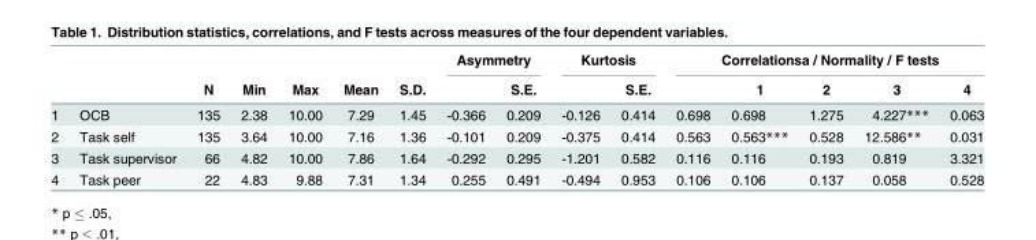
<table><thead><tr><td rowspan="2"></td><td rowspan="2"></td><td rowspan="2">N</td><td rowspan="2">Min</td><td rowspan="2">Max</td><td rowspan="2">Mean</td><td rowspan="2">S.D.</td><td colspan="2">Asymmetry</td><td colspan="2">Kurtosis</td><td colspan="5">Correlationsa / Normality / F tests</td></tr><tr><td></td><td>S.E.</td><td></td><td>S.E.</td><td></td><td>1</td><td>2</td><td>3</td><td>4</td></tr></thead><tbody><tr><td>1</td><td>OCB</td><td>135</td><td>2.38</td><td>10.00</td><td>7.29</td><td>1.45</td><td>-0.366</td><td>0.209</td><td>-0.126</td><td>0.414</td><td>0.698</td><td>0.698</td><td>1.275</td><td>4.227***</td><td>0.063</td></tr><tr><td>2</td><td>Task self</td><td>135</td><td>3.64</td><td>10.00</td><td>7.16</td><td>1.36</td><td>-0.101</td><td>0.209</td><td>-0.375</td><td>0.414</td><td>0.563</td><td>0.563***</td><td>0.528</td><td>12.586**</td><td>0.031</td></tr><tr><td>3</td><td>Task supervisor</td><td>66</td><td>4.82</td><td>10.00</td><td>7.86</td><td>1.64</td><td>-0.292</td><td>0.295</td><td>-1.201</td><td>0.582</td><td>0.116</td><td>0.116</td><td>0.193</td><td>0.819</td><td>3.321</td></tr><tr><td>4</td><td>Task peer</td><td>22</td><td>4.83</td><td>9.88</td><td>7.31</td><td>1.34</td><td>0.255</td><td>0.491</td><td>-0.494</td><td>0.953</td><td>0.106</td><td>0.106</td><td>0.137</td><td>0.058</td><td>0.528</td></tr></tbody></table>